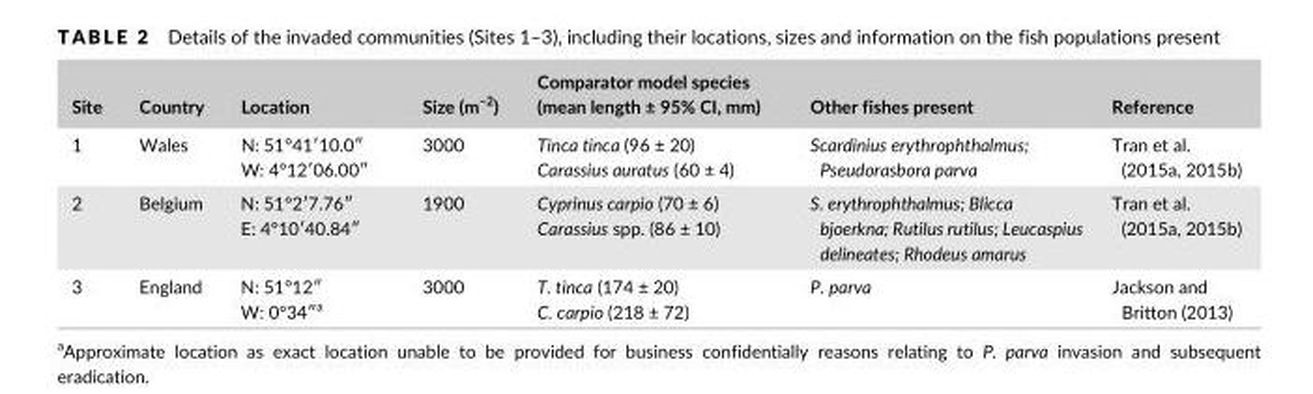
<table><thead><tr><td>Site</td><td>Country</td><td>Location</td><td>Size (m<sup>−2</sup>)</td><td>Comparator model species (mean length ± 95% CI, mm)</td><td>Other fishes present</td><td>Reference</td></tr></thead><tbody><tr><td>1</td><td>Wales</td><td>N: 51°41′10.0″ W: 4°12′06.00″</td><td>3000</td><td>Tinca tinca (96 ± 20) Carassius auratus (60 ± 4)</td><td>Scardinius erythrophthalmus; Pseudorasbora parva</td><td>Tran et al. (2015a, 2015b)</td></tr><tr><td>2</td><td>Belgium</td><td>N: 51°2′7.76″ E: 4°10′40.84″</td><td>1900</td><td>Cyprinus carpio (70 ± 6) Carassius spp. (86 ± 10)</td><td>S. erythrophthalmus; Blicca bjoerkna; Rutilus rutilus; Leucaspius delineates; Rhodeus amarus</td><td>Tran et al. (2015a, 2015b)</td></tr><tr><td>3</td><td>England</td><td>N: 51°12″ W: 0°34″<sup>a</sup></td><td>3000</td><td>T. tinca (174 ± 20) C. carpio (218 ± 72)</td><td>P. parva</td><td>Jackson and Britton (2013)</td></tr></tbody></table>